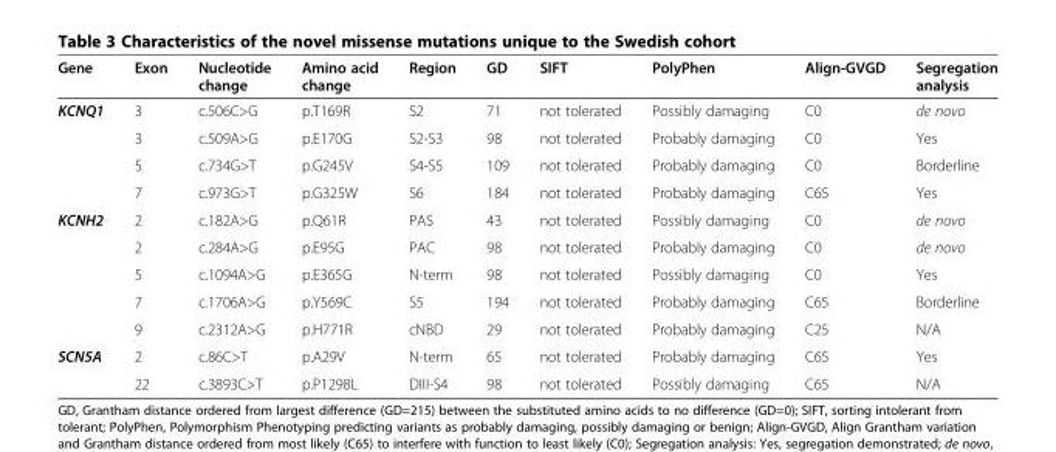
<table><thead><tr><td>Gene</td><td>Exon</td><td>Nucleotide change</td><td>Amino acid change</td><td>Region</td><td>GD</td><td>SIFT</td><td>PolyPhen</td><td>Align-GVGD</td><td>Segregation analysis</td></tr></thead><tbody><tr><td rowspan="4">KCNQ1</td><td>3</td><td>c.506C&gt;G</td><td>p.T169R</td><td>S2</td><td>71</td><td>not tolerated</td><td>Possibly damaging</td><td>C0</td><td>de novo</td></tr><tr><td>3</td><td>c.509A&gt;G</td><td>p.E170G</td><td>S2-S3</td><td>98</td><td>not tolerated</td><td>Probably damaging</td><td>C0</td><td>Yes</td></tr><tr><td>5</td><td>c.734G&gt;T</td><td>p.G245V</td><td>S4-S5</td><td>109</td><td>not tolerated</td><td>Probably damaging</td><td>C0</td><td>Borderline</td></tr><tr><td>7</td><td>c.973G&gt;T</td><td>p.G325W</td><td>S6</td><td>184</td><td>not tolerated</td><td>Probably damaging</td><td>C65</td><td>Yes</td></tr><tr><td rowspan="5">KCNH2</td><td>2</td><td>c.182A&gt;G</td><td>p.Q61R</td><td>PAS</td><td>43</td><td>not tolerated</td><td>Possibly damaging</td><td>C0</td><td>de novo</td></tr><tr><td>2</td><td>c.284A&gt;G</td><td>p.E95G</td><td>PAC</td><td>98</td><td>not tolerated</td><td>Probably damaging</td><td>C0</td><td>de novo</td></tr><tr><td>5</td><td>c.1094A&gt;G</td><td>p.E365G</td><td>N-term</td><td>98</td><td>not tolerated</td><td>Possibly damaging</td><td>C0</td><td>Yes</td></tr><tr><td>7</td><td>c.1706A&gt;G</td><td>p.Y569C</td><td>S5</td><td>194</td><td>not tolerated</td><td>Probably damaging</td><td>C65</td><td>Borderline</td></tr><tr><td>9</td><td>c.2312A&gt;G</td><td>p.H771R</td><td>cNBD</td><td>29</td><td>not tolerated</td><td>Probably damaging</td><td>C25</td><td>N/A</td></tr><tr><td rowspan="2">SCN5A</td><td>2</td><td>c.86C&gt;T</td><td>p.A29V</td><td>N-term</td><td>65</td><td>not tolerated</td><td>Probably damaging</td><td>C65</td><td>Yes</td></tr><tr><td>22</td><td>c.3893C&gt;T</td><td>p.P1298L</td><td>DIII-S4</td><td>98</td><td>not tolerated</td><td>Possibly damaging</td><td>C65</td><td>N/A</td></tr></tbody></table>